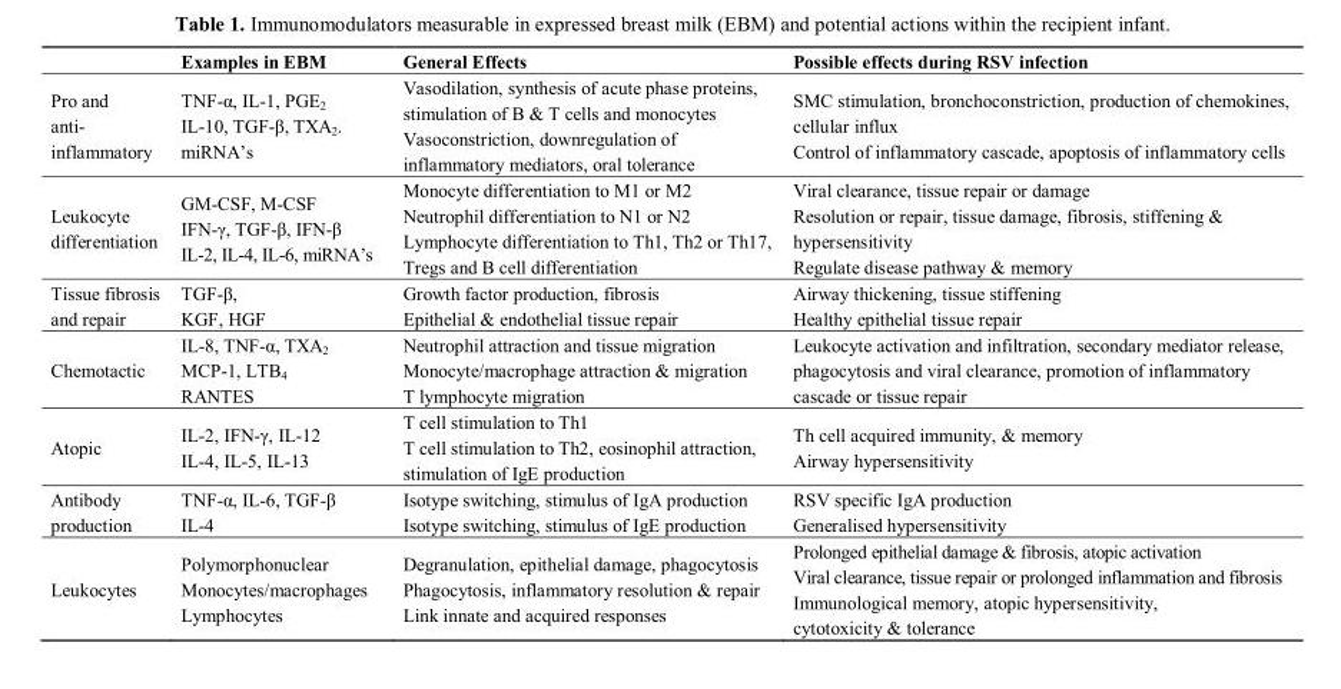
<table><thead><tr><td></td><td>Examples in EBM</td><td>General Effects</td><td>Possible effects during RSV infection</td></tr></thead><tbody><tr><td>Pro and anti- inflammatory</td><td>TNF-α, IL-1, PGE<sub>2</sub> IL-10, TGF-β, TXA<sub>2</sub>. miRNA’s</td><td>Vasodilation, synthesis of acute phase proteins, stimulation of B &amp; T cells and monocytes Vasoconstriction, downregulation of inflammatory mediators, oral tolerance</td><td>SMC stimulation, bronchoconstriction, production of chemokines, cellular influx Control of inflammatory cascade, apoptosis of inflammatory cells</td></tr><tr><td>Leukocyte differentiation</td><td>GM-CSF, M-CSF IFN-γ, TGF-β, IFN-β IL-2, IL-4, IL-6, miRNA’s</td><td>Monocyte differentiation to M1 or M2 Neutrophil differentiation to N1 or N2 Lymphocyte differentiation to Th1, Th2 or Th17, Tregs and B cell differentiation</td><td>Viral clearance, tissue repair or damage Resolution or repair, tissue damage, fibrosis, stiffening &amp; hypersensitivity Regulate disease pathway &amp; memory</td></tr><tr><td>Tissue fibrosis and repair</td><td>TGF-β, KGF, HGF</td><td>Growth factor production, fibrosis Epithelial &amp; endothelial tissue repair</td><td>Airway thickening, tissue stiffening Healthy epithelial tissue repair</td></tr><tr><td>Chemotactic</td><td>IL-8, TNF-α, TXA<sub>2</sub> MCP-1, LTB<sub>4</sub> RANTES</td><td>Neutrophil attraction and tissue migration Monocyte/macrophage attraction &amp; migration T lymphocyte migration</td><td>Leukocyte activation and infiltration, secondary mediator release, phagocytosis and viral clearance, promotion of inflammatory cascade or tissue repair</td></tr><tr><td>Atopic</td><td>IL-2, IFN-γ, IL-12 IL-4, IL-5, IL-13</td><td>T cell stimulation to Th1 T cell stimulation to Th2, eosinophil attraction, stimulation of IgE production</td><td>Th cell acquired immunity, &amp; memory Airway hypersensitivity</td></tr><tr><td>Antibody production</td><td>TNF-α, IL-6, TGF-β IL-4</td><td>Isotype switching, stimulus of IgA production Isotype switching, stimulus of IgE production</td><td>RSV specific IgA production Generalised hypersensitivity</td></tr><tr><td>Leukocytes</td><td>Polymorphonuclear Monocytes/macrophages Lymphocytes</td><td>Degranulation, epithelial damage, phagocytosis Phagocytosis, inflammatory resolution &amp; repair Link innate and acquired responses</td><td>Prolonged epithelial damage &amp; fibrosis, atopic activation Viral clearance, tissue repair or prolonged inflammation and fibrosis Immunological memory, atopic hypersensitivity, cytotoxicity &amp; tolerance</td></tr></tbody></table>